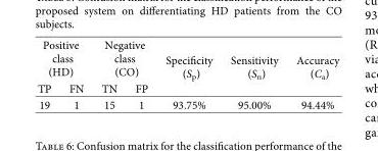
<table><thead><tr><td colspan="2">Positive class (HD)</td><td colspan="2">Negative class (CO)</td><td rowspan="2">Specificity (S<sub>p</sub>)</td><td rowspan="2">Sensitivity (S<sub>n</sub>)</td><td rowspan="2">Accuracy (C<sub>a</sub>)</td></tr><tr><td>TP</td><td>FN</td><td>TN</td><td>FP</td></tr></thead><tbody><tr><td>19</td><td>1</td><td>15</td><td>1</td><td>93.75%</td><td>95.00%</td><td>94.44%</td></tr></tbody></table>